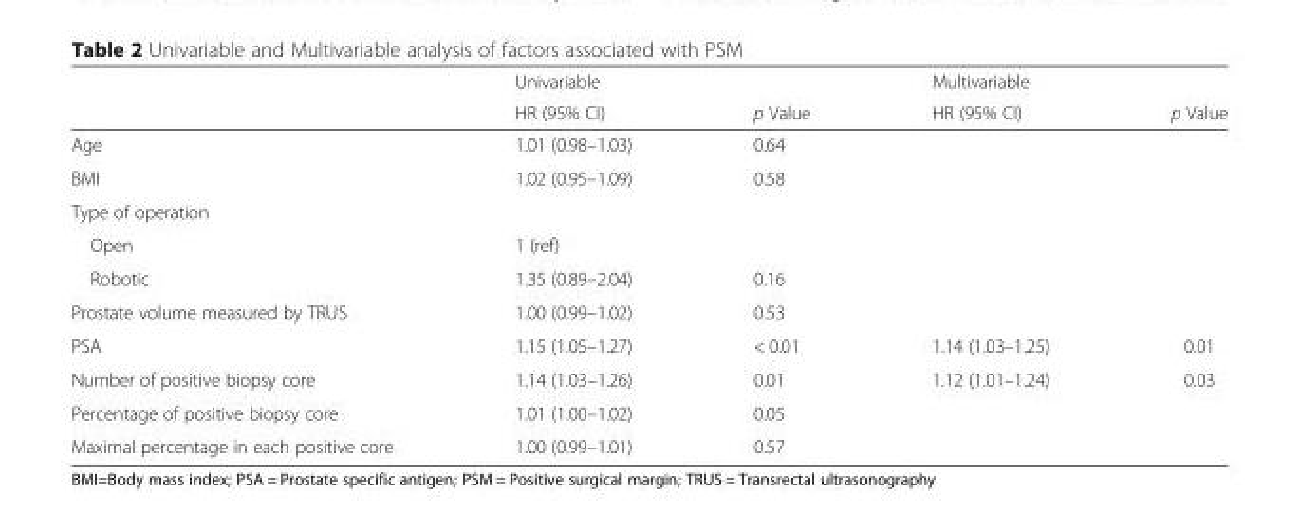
<table><thead><tr><td rowspan="2"></td><td rowspan="2">Univariable HR (95% CI)</td><td rowspan="2">p Value</td><td rowspan="2">Multivariable HR (95% CI)</td><td rowspan="2">p Value</td></tr><tr></tr></thead><tbody><tr><td>Age</td><td>1.01 (0.98–1.03)</td><td>0.64</td><td></td><td></td></tr><tr><td>BMI</td><td>1.02 (0.95–1.09)</td><td>0.58</td><td></td><td></td></tr><tr><td colspan="5">Type of operation</td></tr><tr><td>Open</td><td>1 (ref)</td><td></td><td></td><td></td></tr><tr><td>Robotic</td><td>1.35 (0.89–2.04)</td><td>0.16</td><td></td><td></td></tr><tr><td>Prostate volume measured by TRUS</td><td>1.00 (0.99–1.02)</td><td>0.53</td><td></td><td></td></tr><tr><td>PSA</td><td>1.15 (1.05–1.27)</td><td>&lt; 0.01</td><td>1.14 (1.03–1.25)</td><td>0.01</td></tr><tr><td>Number of positive biopsy core</td><td>1.14 (1.03–1.26)</td><td>0.01</td><td>1.12 (1.01–1.24)</td><td>0.03</td></tr><tr><td>Percentage of positive biopsy core</td><td>1.01 (1.00–1.02)</td><td>0.05</td><td></td><td></td></tr><tr><td>Maximal percentage in each positive core</td><td>1.00 (0.99–1.01)</td><td>0.57</td><td></td><td></td></tr></tbody></table>